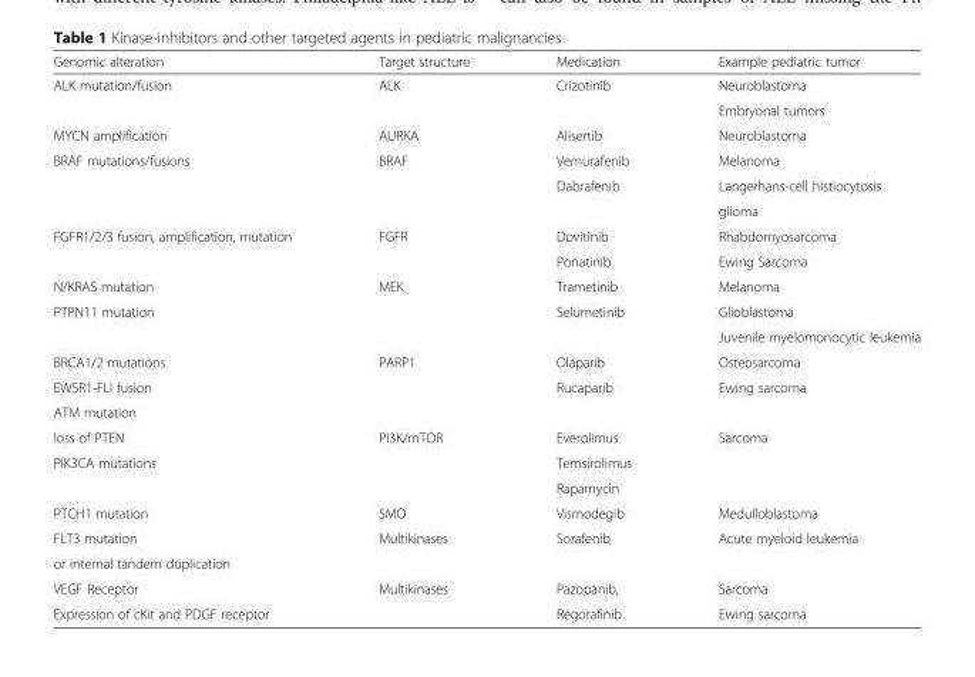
<table><thead><tr><td>Genomic alteration</td><td>Target structure</td><td>Medication</td><td>Example pediatric tumor</td></tr></thead><tbody><tr><td rowspan="2">ALK mutation/fusion</td><td rowspan="2">ALK</td><td rowspan="2">Crizotinib</td><td>Neuroblastoma</td></tr><tr><td>Embryonal tumors</td></tr><tr><td>MYCN amplification</td><td>AURKA</td><td>Alisertib</td><td>Neuroblastoma</td></tr><tr><td rowspan="3">BRAF mutations/fusions</td><td rowspan="3">BRAF</td><td>Vemurafenib</td><td>Melanoma</td></tr><tr><td rowspan="2">Dabrafenib</td><td>Langerhans-cell histiocytosis</td></tr><tr><td>glioma</td></tr><tr><td rowspan="2">FGFR1/2/3 fusion, amplification, mutation</td><td rowspan="2">FGFR</td><td>Dovitinib</td><td>Rhabdomyosarcoma</td></tr><tr><td>Ponatinib</td><td>Ewing Sarcoma</td></tr><tr><td>N/KRAS mutation</td><td rowspan="3">MEK</td><td>Trametinib</td><td>Melanoma</td></tr><tr><td rowspan="2">PTPN11 mutation</td><td rowspan="2">Selumetinib</td><td>Glioblastoma</td></tr><tr><td>Juvenile myelomonocytic leukemia</td></tr><tr><td>BRCA1/2 mutations</td><td rowspan="3">PARP1</td><td>Olaparib</td><td>Osteosarcoma</td></tr><tr><td>EWSR1-FLI fusion</td><td rowspan="2">Rucaparib</td><td rowspan="2">Ewing sarcoma</td></tr><tr><td>ATM mutation</td></tr><tr><td>loss of PTEN</td><td rowspan="3">PI3K/mTOR</td><td>Everolimus</td><td rowspan="3">Sarcoma</td></tr><tr><td rowspan="2">PIK3CA mutations</td><td>Temsirolimus</td></tr><tr><td>Rapamycin</td></tr><tr><td>PTCH1 mutation</td><td>SMO</td><td>Vismodegib</td><td>Medulloblastoma</td></tr><tr><td>FLT3 mutation</td><td rowspan="2">Multikinases</td><td rowspan="2">Sorafenib</td><td rowspan="2">Acute myeloid leukemia</td></tr><tr><td>or internal tandem duplication</td></tr><tr><td>VEGF Receptor</td><td rowspan="2">Multikinases</td><td>Pazopanib,</td><td>Sarcoma</td></tr><tr><td>Expression of cKit and PDGF receptor</td><td>Regorafinib</td><td>Ewing sarcoma</td></tr></tbody></table>